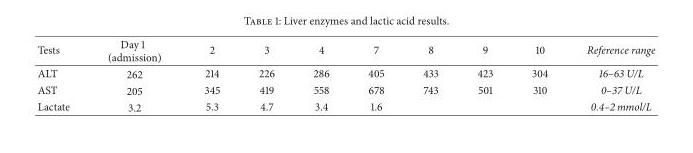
<table><thead><tr><td>Tests</td><td>Day 1 (admission)</td><td>2</td><td>3</td><td>4</td><td>7</td><td>8</td><td>9</td><td>10</td><td>Reference range</td></tr></thead><tbody><tr><td>ALT</td><td>262</td><td>214</td><td>226</td><td>286</td><td>405</td><td>433</td><td>423</td><td>304</td><td>16–63 U/L</td></tr><tr><td>AST</td><td>205</td><td>345</td><td>419</td><td>558</td><td>678</td><td>743</td><td>501</td><td>310</td><td>0–37 U/L</td></tr><tr><td>Lactate</td><td>3.2</td><td>5.3</td><td>4.7</td><td>3.4</td><td>1.6</td><td></td><td></td><td></td><td>0.4–2 mmol/L</td></tr></tbody></table>